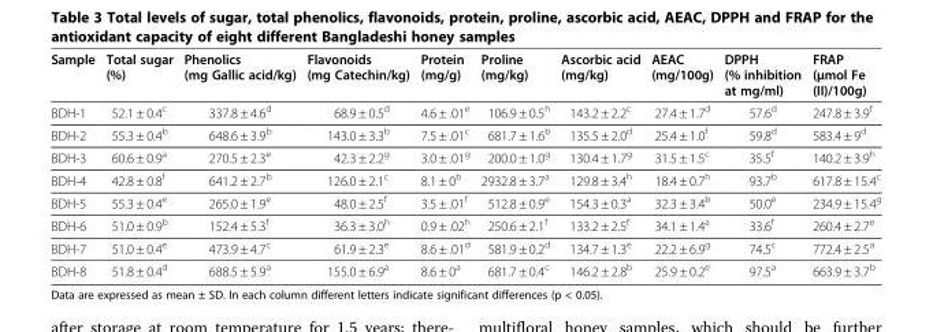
<table><thead><tr><td>Sample</td><td>Total sugar (%)</td><td>Phenolics (mg Gallic acid/kg)</td><td>Flavonoids (mg Catechin/kg)</td><td>Protein (mg/g)</td><td>Proline (mg/kg)</td><td>Ascorbic acid (mg/kg)</td><td>AEAC (mg/100g)</td><td>DPPH (% inhibition at mg/ml)</td><td>FRAP (μmol Fe (II)/100g)</td></tr></thead><tbody><tr><td>BDH-1</td><td>52.1 ± 0.4<sup>c</sup></td><td>337.8 ± 4.6<sup>d</sup></td><td>68.9 ± 0.5<sup>d</sup></td><td>4.6 ± .01<sup>e</sup></td><td>106.9 ± 0.5<sup>h</sup></td><td>143.2 ± 2.2<sup>c</sup></td><td>27.4 ± 1.7<sup>d</sup></td><td>57.6<sup>d</sup></td><td>247.8 ± 3.9<sup>f</sup></td></tr><tr><td>BDH-2</td><td>55.3 ± 0.4<sup>b</sup></td><td>648.6 ± 3.9<sup>b</sup></td><td>143.0 ± 3.3<sup>b</sup></td><td>7.5 ± .01<sup>c</sup></td><td>681.7 ± 1.6<sup>b</sup></td><td>135.5 ± 2.0<sup>d</sup></td><td>25.4 ± 1.0<sup>f</sup></td><td>59.8<sup>d</sup></td><td>583.4 ± 9<sup>d</sup></td></tr><tr><td>BDH-3</td><td>60.6 ± 0.9<sup>a</sup></td><td>270.5 ± 2.3<sup>e</sup></td><td>42.3 ± 2.2<sup>g</sup></td><td>3.0 ± .01<sup>g</sup></td><td>200.0 ± 1.0<sup>g</sup></td><td>130.4 ± 1.7<sup>g</sup></td><td>31.5 ± 1.5<sup>c</sup></td><td>35.5<sup>f</sup></td><td>140.2 ± 3.9<sup>h</sup></td></tr><tr><td>BDH-4</td><td>42.8 ± 0.8<sup>f</sup></td><td>641.2 ± 2.7<sup>b</sup></td><td>126.0 ± 2.1<sup>c</sup></td><td>8.1 ± 0<sup>b</sup></td><td>2932.8 ± 3.7<sup>a</sup></td><td>129.8 ± 3.4<sup>h</sup></td><td>18.4 ± 0.7<sup>h</sup></td><td>93.7<sup>b</sup></td><td>617.8 ± 15.4<sup>c</sup></td></tr><tr><td>BDH-5</td><td>55.3 ± 0.4<sup>e</sup></td><td>265.0 ± 1.9<sup>e</sup></td><td>48.0 ± 2.5<sup>f</sup></td><td>3.5 ± .01<sup>f</sup></td><td>512.8 ± 0.9<sup>e</sup></td><td>154.3 ± 0.3<sup>a</sup></td><td>32.3 ± 3.4<sup>b</sup></td><td>50.0<sup>e</sup></td><td>234.9 ± 15.4<sup>g</sup></td></tr><tr><td>BDH-6</td><td>51.0 ± 0.9<sup>b</sup></td><td>152.4 ± 5.3<sup>f</sup></td><td>36.3 ± 3.0<sup>h</sup></td><td>0.9 ± .02<sup>h</sup></td><td>250.6 ± 2.1<sup>f</sup></td><td>133.2 ± 2.5<sup>f</sup></td><td>34.1 ± 1.4<sup>a</sup></td><td>33.6<sup>f</sup></td><td>260.4 ± 2.7<sup>e</sup></td></tr><tr><td>BDH-7</td><td>51.0 ± 0.4<sup>e</sup></td><td>473.9 ± 4.7<sup>c</sup></td><td>61.9 ± 2.3<sup>e</sup></td><td>8.6 ± .01<sup>d</sup></td><td>581.9 ± 0.2<sup>d</sup></td><td>134.7 ± 1.3<sup>e</sup></td><td>22.2 ± 6.9<sup>g</sup></td><td>74.5<sup>c</sup></td><td>772.4 ± 2.5<sup>a</sup></td></tr><tr><td>BDH-8</td><td>51.8 ± 0.4<sup>d</sup></td><td>688.5 ± 5.9<sup>a</sup></td><td>155.0 ± 6.9<sup>a</sup></td><td>8.6 ± 0<sup>a</sup></td><td>681.7 ± 0.4<sup>c</sup></td><td>146.2 ± 2.8<sup>b</sup></td><td>25.9 ± 0.2<sup>e</sup></td><td>97.5<sup>a</sup></td><td>663.9 ± 3.7<sup>b</sup></td></tr></tbody></table>